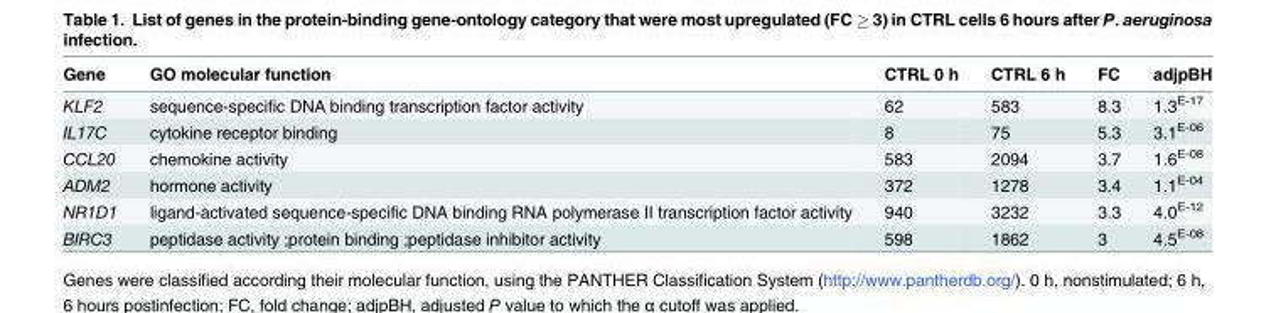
<table><thead><tr><td>Gene</td><td>GO molecular function</td><td>CTRL 0 h</td><td>CTRL 6 h</td><td>FC</td><td>adjpBH</td></tr></thead><tbody><tr><td>KLF2</td><td>sequence-specific DNA binding transcription factor activity</td><td>62</td><td>583</td><td>8.3</td><td>1.3<sup>E-17</sup></td></tr><tr><td>IL17C</td><td>cytokine receptor binding</td><td>8</td><td>75</td><td>5.3</td><td>3.1<sup>E-06</sup></td></tr><tr><td>CCL20</td><td>chemokine activity</td><td>583</td><td>2094</td><td>3.7</td><td>1.6<sup>E-08</sup></td></tr><tr><td>ADM2</td><td>hormone activity</td><td>372</td><td>1278</td><td>3.4</td><td>1.1<sup>E-04</sup></td></tr><tr><td>NR1D1</td><td>ligand-activated sequence-specific DNA binding RNA polymerase II transcription factor activity</td><td>940</td><td>3232</td><td>3.3</td><td>4.0<sup>E-12</sup></td></tr><tr><td>BIRC3</td><td>peptidase activity ;protein binding ;peptidase inhibitor activity</td><td>598</td><td>1862</td><td>3</td><td>4.5<sup>E-08</sup></td></tr></tbody></table>